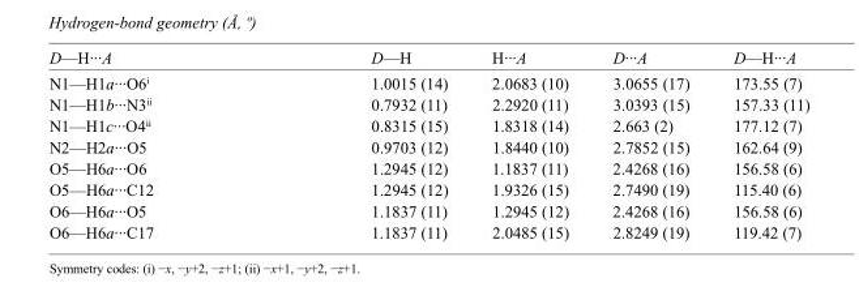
<table><tbody><tr><td>D—H···A</td><td>D—H</td><td>H···A</td><td>D···A</td><td>D—H···A</td></tr><tr><td>N1—H1a···O6<sup>i</sup></td><td>1.0015 (14)</td><td>2.0683 (10)</td><td>3.0655 (17)</td><td>173.55 (7)</td></tr><tr><td>N1—H1b···N3<sup>ii</sup></td><td>0.7932 (11)</td><td>2.2920 (11)</td><td>3.0393 (15)</td><td>157.33 (11)</td></tr><tr><td>N1—H1c···O4<sup>ii</sup></td><td>0.8315 (15)</td><td>1.8318 (14)</td><td>2.663 (2)</td><td>177.12 (7)</td></tr><tr><td>N2—H2a···O5</td><td>0.9703 (12)</td><td>1.8440 (10)</td><td>2.7852 (15)</td><td>162.64 (9)</td></tr><tr><td>O5—H6a···O6</td><td>1.2945 (12)</td><td>1.1837 (11)</td><td>2.4268 (16)</td><td>156.58 (6)</td></tr><tr><td>O5—H6a···C12</td><td>1.2945 (12)</td><td>1.9326 (15)</td><td>2.7490 (19)</td><td>115.40 (6)</td></tr><tr><td>O6—H6a···O5</td><td>1.1837 (11)</td><td>1.2945 (12)</td><td>2.4268 (16)</td><td>156.58 (6)</td></tr><tr><td>O6—H6a···C17</td><td>1.1837 (11)</td><td>2.0485 (15)</td><td>2.8249 (19)</td><td>119.42 (7)</td></tr></tbody></table>